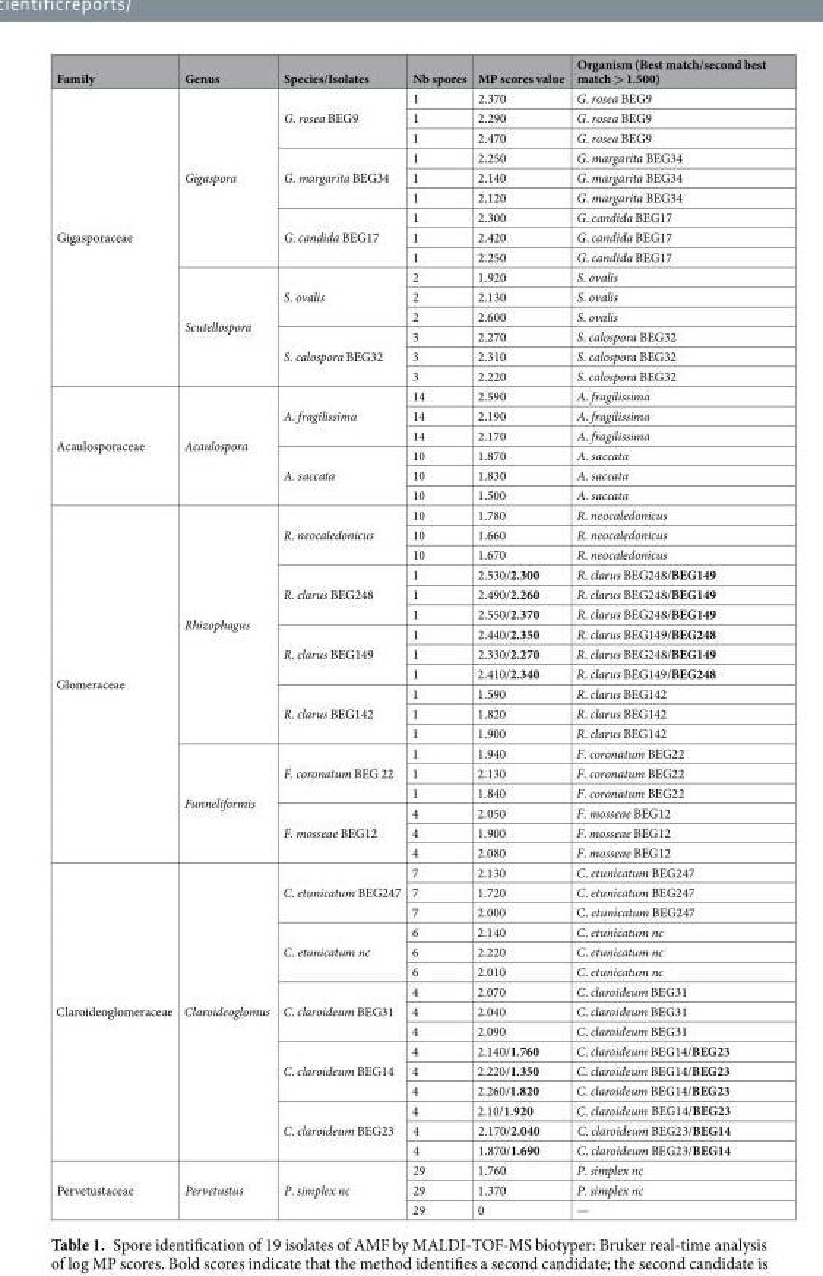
<table><thead><tr><td>Family</td><td>Genus</td><td>Species/Isolates</td><td>Nb spores</td><td>MP scores value</td><td>Organism (Best match/second best match &gt; 1.500)</td></tr></thead><tbody><tr><td rowspan="15">Gigasporaceae</td><td rowspan="9">Gigaspora</td><td rowspan="3">G. rosea BEG9</td><td>1</td><td>2.370</td><td>G. rosea BEG9</td></tr><tr><td>1</td><td>2.290</td><td>G. rosea BEG9</td></tr><tr><td>1</td><td>2.470</td><td>G. rosea BEG9</td></tr><tr><td rowspan="3">G. margarita BEG34</td><td>1</td><td>2.250</td><td>G. margarita BEG34</td></tr><tr><td>1</td><td>2.140</td><td>G. margarita BEG34</td></tr><tr><td>1</td><td>2.120</td><td>G. margarita BEG34</td></tr><tr><td rowspan="3">G. candida BEG17</td><td>1</td><td>2.300</td><td>G. candida BEG17</td></tr><tr><td>1</td><td>2.420</td><td>G. candida BEG17</td></tr><tr><td>1</td><td>2.250</td><td>G. candida BEG17</td></tr><tr><td rowspan="6">Scutellospora</td><td rowspan="3">S. ovalis</td><td>2</td><td>1.920</td><td>S. ovalis</td></tr><tr><td>2</td><td>2.130</td><td>S. ovalis</td></tr><tr><td>2</td><td>2.600</td><td>S. ovalis</td></tr><tr><td rowspan="3">S. calospora BEG32</td><td>3</td><td>2.270</td><td>S. calospora BEG32</td></tr><tr><td>3</td><td>2.310</td><td>S. calospora BEG32</td></tr><tr><td>3</td><td>2.220</td><td>S. calospora BEG32</td></tr><tr><td rowspan="6">Acaulosporaceae</td><td rowspan="6">Acaulospora</td><td rowspan="3">A. fragilissima</td><td>14</td><td>2.590</td><td>A. fragilissima</td></tr><tr><td>14</td><td>2.190</td><td>A. fragilissima</td></tr><tr><td>14</td><td>2.170</td><td>A. fragilissima</td></tr><tr><td rowspan="3">A. saccata</td><td>10</td><td>1.870</td><td>A. saccata</td></tr><tr><td>10</td><td>1.830</td><td>A. saccata</td></tr><tr><td>10</td><td>1.500</td><td>A. saccata</td></tr><tr><td rowspan="18">Glomeraceae</td><td rowspan="12">Rhizophagus</td><td rowspan="3">R. neocaledonicus</td><td>10</td><td>1.780</td><td>R. neocaledonicus</td></tr><tr><td>10</td><td>1.660</td><td>R. neocaledonicus</td></tr><tr><td>10</td><td>1.670</td><td>R. neocaledonicus</td></tr><tr><td rowspan="3">R. clarus BEG248</td><td>1</td><td>2.530/2.300</td><td>R. clarus BEG248/BEG149</td></tr><tr><td>1</td><td>2.490/2.260</td><td>R. clarus BEG248/BEG149</td></tr><tr><td>1</td><td>2.550/2.370</td><td>R. clarus BEG248/BEG149</td></tr><tr><td rowspan="3">R. clarus BEG149</td><td>1</td><td>2.440/2.350</td><td>R. clarus BEG149/BEG248</td></tr><tr><td>1</td><td>2.330/2.270</td><td>R. clarus BEG248/BEG149</td></tr><tr><td>1</td><td>2.410/2.340</td><td>R. clarus BEG149/BEG248</td></tr><tr><td rowspan="3">R. clarus BEG142</td><td>1</td><td>1.590</td><td>R. clarus BEG142</td></tr><tr><td>1</td><td>1.820</td><td>R. clarus BEG142</td></tr><tr><td>1</td><td>1.900</td><td>R. clarus BEG142</td></tr><tr><td rowspan="6">Funneliformis</td><td rowspan="3">F. coronatum BEG 22</td><td>1</td><td>1.940</td><td>F. coronatum BEG22</td></tr><tr><td>1</td><td>2.130</td><td>F. coronatum BEG22</td></tr><tr><td>1</td><td>1.840</td><td>F. coronatum BEG22</td></tr><tr><td rowspan="3">F. mosseae BEG12</td><td>4</td><td>2.050</td><td>F. mosseae BEG12</td></tr><tr><td>4</td><td>1.900</td><td>F. mosseae BEG12</td></tr><tr><td>4</td><td>2.080</td><td>F. mosseae BEG12</td></tr><tr><td rowspan="15">Claroideoglomeraceae</td><td rowspan="15">Claroideoglomus</td><td rowspan="3">C. etunicatum BEG247</td><td>7</td><td>2.130</td><td>C. etunicatum BEG247</td></tr><tr><td>7</td><td>1.720</td><td>C. etunicatum BEG247</td></tr><tr><td>7</td><td>2.000</td><td>C. etunicatum BEG247</td></tr><tr><td rowspan="3">C. etunicatum nc</td><td>6</td><td>2.140</td><td>C. etunicatum nc</td></tr><tr><td>6</td><td>2.220</td><td>C. etunicatum nc</td></tr><tr><td>6</td><td>2.010</td><td>C. etunicatum nc</td></tr><tr><td rowspan="3">C. claroideum BEG31</td><td>4</td><td>2.070</td><td>C. claroideum BEG31</td></tr><tr><td>4</td><td>2.040</td><td>C. claroideum BEG31</td></tr><tr><td>4</td><td>2.090</td><td>C. claroideum BEG31</td></tr><tr><td rowspan="3">C. claroideum BEG14</td><td>4</td><td>2.140/1.760</td><td>C. claroideum BEG14/BEG23</td></tr><tr><td>4</td><td>2.220/1.350</td><td>C. claroideum BEG14/BEG23</td></tr><tr><td>4</td><td>2.260/1.820</td><td>C. claroideum BEG14/BEG23</td></tr><tr><td rowspan="3">C. claroideum BEG23</td><td>4</td><td>2.10/1.920</td><td>C. claroideum BEG14/BEG23</td></tr><tr><td>4</td><td>2.170/2.040</td><td>C. claroideum BEG23/BEG14</td></tr><tr><td>4</td><td>1.870/1.690</td><td>C. claroideum BEG23/BEG14</td></tr><tr><td rowspan="3">Pervetustaceae</td><td rowspan="3">Pervetustus</td><td rowspan="3">P. simplex nc</td><td>29</td><td>1.760</td><td>P. simplex nc</td></tr><tr><td>29</td><td>1.370</td><td>P. simplex nc</td></tr><tr><td>29</td><td>0</td><td>—</td></tr></tbody></table>